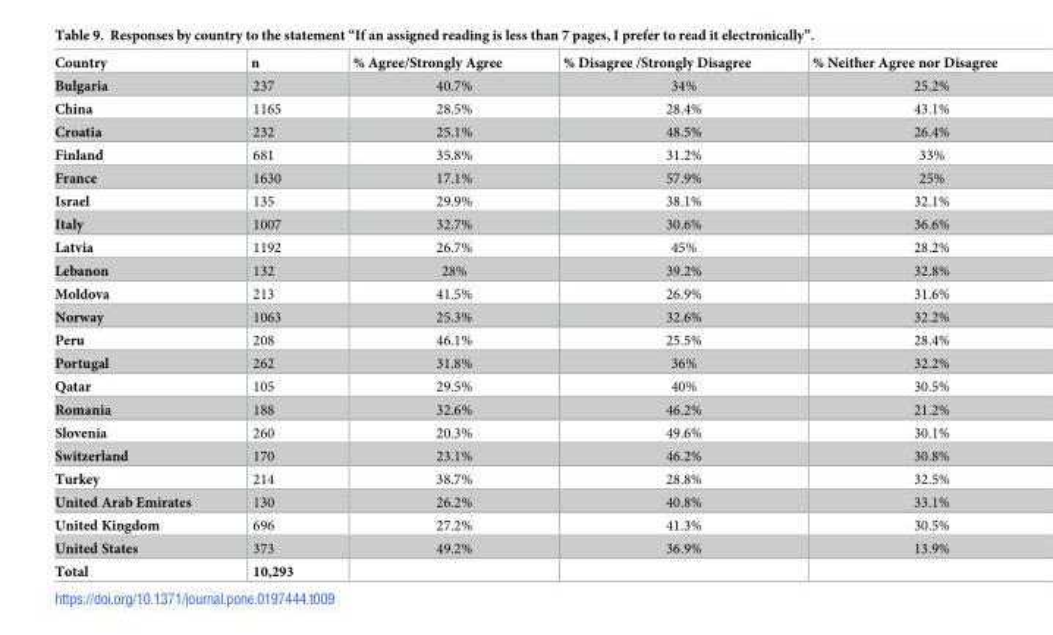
<table><thead><tr><td>Country</td><td>n</td><td>% Agree/Strongly Agree</td><td>% Disagree /Strongly Disagree</td><td>% Neither Agree nor Disagree</td></tr></thead><tbody><tr><td>Bulgaria</td><td>237</td><td>40.7%</td><td>34%</td><td>25.2%</td></tr><tr><td>China</td><td>1165</td><td>28.5%</td><td>28.4%</td><td>43.1%</td></tr><tr><td>Croatia</td><td>232</td><td>25.1%</td><td>48.5%</td><td>26.4%</td></tr><tr><td>Finland</td><td>681</td><td>35.8%</td><td>31.2%</td><td>33%</td></tr><tr><td>France</td><td>1630</td><td>17.1%</td><td>57.9%</td><td>25%</td></tr><tr><td>Israel</td><td>135</td><td>29.9%</td><td>38.1%</td><td>32.1%</td></tr><tr><td>Italy</td><td>1007</td><td>32.7%</td><td>30.6%</td><td>36.6%</td></tr><tr><td>Latvia</td><td>1192</td><td>26.7%</td><td>45%</td><td>28.2%</td></tr><tr><td>Lebanon</td><td>132</td><td>28%</td><td>39.2%</td><td>32.8%</td></tr><tr><td>Moldova</td><td>213</td><td>41.5%</td><td>26.9%</td><td>31.6%</td></tr><tr><td>Norway</td><td>1063</td><td>25.3%</td><td>32.6%</td><td>32.2%</td></tr><tr><td>Peru</td><td>208</td><td>46.1%</td><td>25.5%</td><td>28.4%</td></tr><tr><td>Portugal</td><td>262</td><td>31.8%</td><td>36%</td><td>32.2%</td></tr><tr><td>Qatar</td><td>105</td><td>29.5%</td><td>40%</td><td>30.5%</td></tr><tr><td>Romania</td><td>188</td><td>32.6%</td><td>46.2%</td><td>21.2%</td></tr><tr><td>Slovenia</td><td>260</td><td>20.3%</td><td>49.6%</td><td>30.1%</td></tr><tr><td>Switzerland</td><td>170</td><td>23.1%</td><td>46.2%</td><td>30.8%</td></tr><tr><td>Turkey</td><td>214</td><td>38.7%</td><td>28.8%</td><td>32.5%</td></tr><tr><td>United Arab Emirates</td><td>130</td><td>26.2%</td><td>40.8%</td><td>33.1%</td></tr><tr><td>United Kingdom</td><td>696</td><td>27.2%</td><td>41.3%</td><td>30.5%</td></tr><tr><td>United States</td><td>373</td><td>49.2%</td><td>36.9%</td><td>13.9%</td></tr><tr><td>Total</td><td>10,293</td><td></td><td></td><td></td></tr></tbody></table>